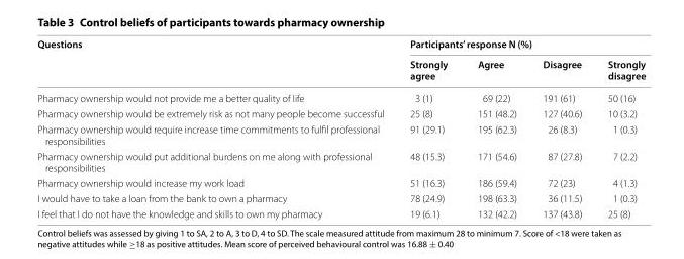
<table><thead><tr><td rowspan="2">Questions</td><td colspan="4">Participants’ response N (%)</td></tr><tr><td>Strongly agree</td><td>Agree</td><td>Disagree</td><td>Strongly disagree</td></tr></thead><tbody><tr><td>Pharmacy ownership would not provide me a better quality of life</td><td>3 (1)</td><td>69 (22)</td><td>191 (61)</td><td>50 (16)</td></tr><tr><td>Pharmacy ownership would be extremely risk as not many people become successful</td><td>25 (8)</td><td>151 (48.2)</td><td>127 (40.6)</td><td>10 (3.2)</td></tr><tr><td>Pharmacy ownership would require increase time commitments to fulfil professional responsibilities</td><td>91 (29.1)</td><td>195 (62.3)</td><td>26 (8.3)</td><td>1 (0.3)</td></tr><tr><td>Pharmacy ownership would put additional burdens on me along with professional responsibilities</td><td>48 (15.3)</td><td>171 (54.6)</td><td>87 (27.8)</td><td>7 (2.2)</td></tr><tr><td>Pharmacy ownership would increase my work load</td><td>51 (16.3)</td><td>186 (59.4)</td><td>72 (23)</td><td>4 (1.3)</td></tr><tr><td>I would have to take a loan from the bank to own a pharmacy</td><td>78 (24.9)</td><td>198 (63.3)</td><td>36 (11.5)</td><td>1 (0.3)</td></tr><tr><td>I feel that I do not have the knowledge and skills to own my pharmacy</td><td>19 (6.1)</td><td>132 (42.2)</td><td>137 (43.8)</td><td>25 (8)</td></tr></tbody></table>